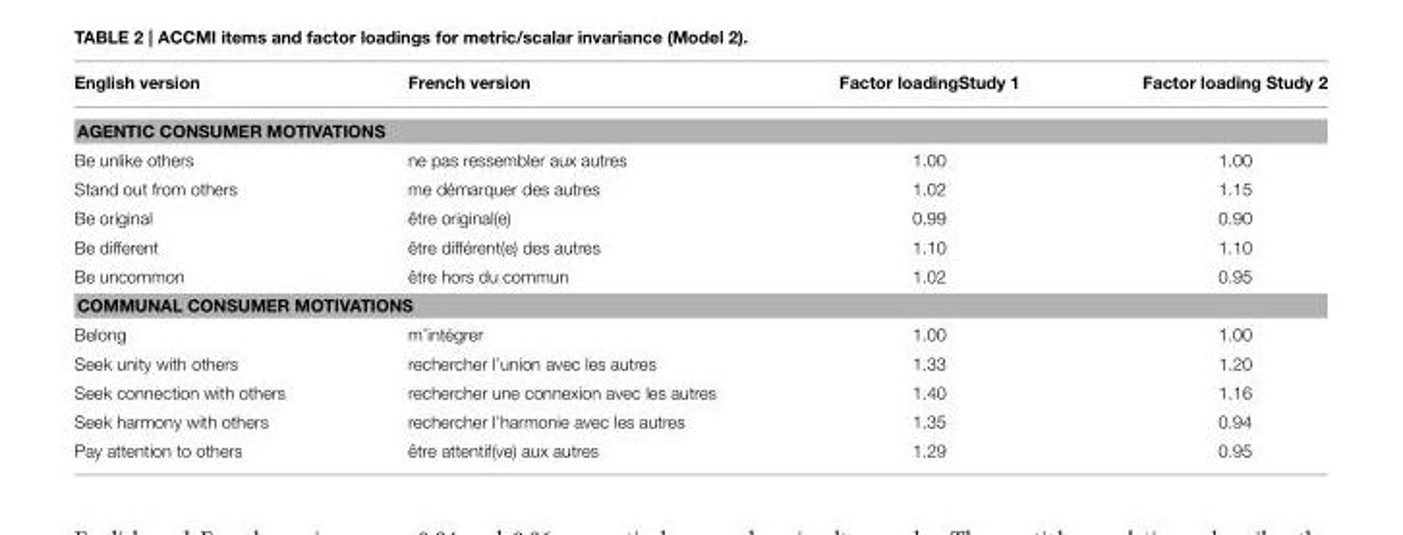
<table><thead><tr><td>English version</td><td>French version</td><td>Factor loadingStudy 1</td><td>Factor loading Study 2</td></tr></thead><tbody><tr><td colspan="4">AGENTIC CONSUMER MOTIVATIONS</td></tr><tr><td>Be unlike others</td><td>ne pas ressembler aux autres</td><td>1.00</td><td>1.00</td></tr><tr><td>Stand out from others</td><td>me démarquer des autres</td><td>1.02</td><td>1.15</td></tr><tr><td>Be original</td><td>être original(e)</td><td>0.99</td><td>0.90</td></tr><tr><td>Be different</td><td>être différent(e) des autres</td><td>1.10</td><td>1.10</td></tr><tr><td>Be uncommon</td><td>être hors du commun</td><td>1.02</td><td>0.95</td></tr><tr><td colspan="4">COMMUNAL CONSUMER MOTIVATIONS</td></tr><tr><td>Belong</td><td>m’intégrer</td><td>1.00</td><td>1.00</td></tr><tr><td>Seek unity with others</td><td>rechercher l’union avec les autres</td><td>1.33</td><td>1.20</td></tr><tr><td>Seek connection with others</td><td>rechercher une connexion avec les autres</td><td>1.40</td><td>1.16</td></tr><tr><td>Seek harmony with others</td><td>rechercher l’harmonie avec les autres</td><td>1.35</td><td>0.94</td></tr><tr><td>Pay attention to others</td><td>être attentif(ve) aux autres</td><td>1.29</td><td>0.95</td></tr></tbody></table>